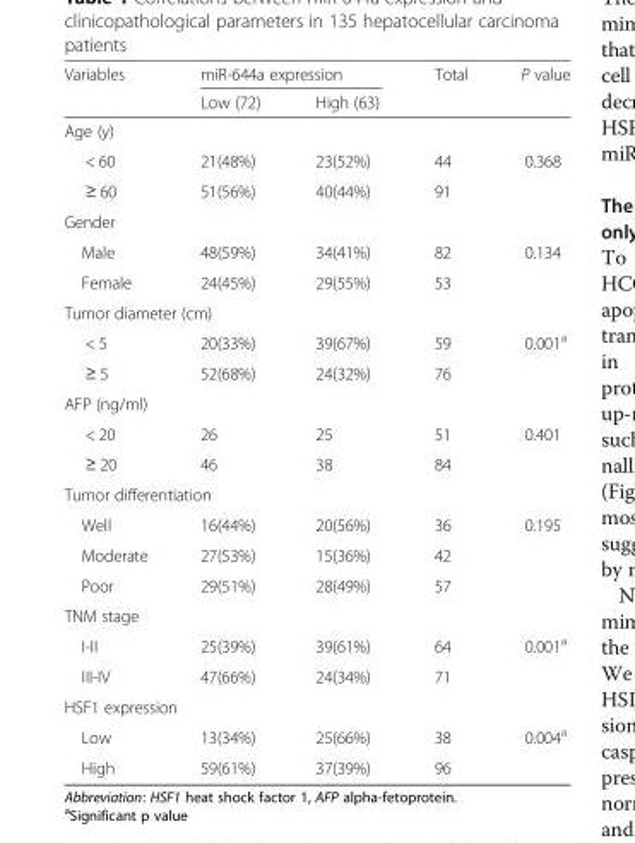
<table><thead><tr><td rowspan="2">Variables</td><td colspan="2">miR-644a expression</td><td rowspan="2">Total</td><td rowspan="2">P value</td></tr><tr><td>Low (72)</td><td>High (63)</td></tr></thead><tbody><tr><td colspan="5">Age (y)</td></tr><tr><td>&lt; 60</td><td>21(48%)</td><td>23(52%)</td><td>44</td><td rowspan="2">0.368</td></tr><tr><td>≥ 60</td><td>51(56%)</td><td>40(44%)</td><td>91</td></tr><tr><td colspan="5">Gender</td></tr><tr><td>Male</td><td>48(59%)</td><td>34(41%)</td><td>82</td><td rowspan="2">0.134</td></tr><tr><td>Female</td><td>24(45%)</td><td>29(55%)</td><td>53</td></tr><tr><td colspan="5">Tumor diameter (cm)</td></tr><tr><td>&lt; 5</td><td>20(33%)</td><td>39(67%)</td><td>59</td><td rowspan="2">0.001<sup>a</sup></td></tr><tr><td>≥ 5</td><td>52(68%)</td><td>24(32%)</td><td>76</td></tr><tr><td colspan="5">AFP (ng/ml)</td></tr><tr><td>&lt; 20</td><td>26</td><td>25</td><td>51</td><td rowspan="2">0.401</td></tr><tr><td>≥ 20</td><td>46</td><td>38</td><td>84</td></tr><tr><td colspan="5">Tumor differentiation</td></tr><tr><td>Well</td><td>16(44%)</td><td>20(56%)</td><td>36</td><td rowspan="3">0.195</td></tr><tr><td>Moderate</td><td>27(53%)</td><td>15(36%)</td><td>42</td></tr><tr><td>Poor</td><td>29(51%)</td><td>28(49%)</td><td>57</td></tr><tr><td colspan="5">TNM stage</td></tr><tr><td>I-II</td><td>25(39%)</td><td>39(61%)</td><td>64</td><td rowspan="2">0.001<sup>a</sup></td></tr><tr><td>III-IV</td><td>47(66%)</td><td>24(34%)</td><td>71</td></tr><tr><td colspan="5">HSF1 expression</td></tr><tr><td>Low</td><td>13(34%)</td><td>25(66%)</td><td>38</td><td rowspan="2">0.004<sup>a</sup></td></tr><tr><td>High</td><td>59(61%)</td><td>37(39%)</td><td>96</td></tr></tbody></table>